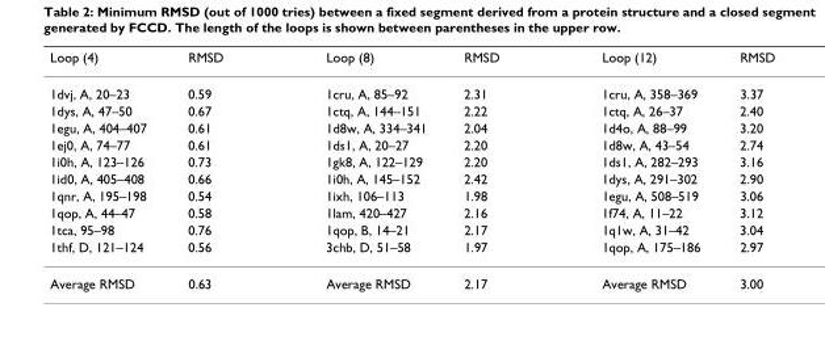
<table><thead><tr><td>Loop (4)</td><td>RMSD</td><td>Loop (8)</td><td>RMSD</td><td>Loop (12)</td><td>RMSD</td></tr></thead><tbody><tr><td>1dvj, A, 20–23</td><td>0.59</td><td>1cru, A, 85–92</td><td>2.31</td><td>1cru, A, 358–369</td><td>3.37</td></tr><tr><td>1dys, A, 47–50</td><td>0.67</td><td>1ctq, A, 144–151</td><td>2.22</td><td>1ctq, A, 26–37</td><td>2.40</td></tr><tr><td>1egu, A, 404–407</td><td>0.61</td><td>1d8w, A, 334–341</td><td>2.04</td><td>1d4o, A, 88–99</td><td>3.20</td></tr><tr><td>1ej0, A, 74–77</td><td>0.61</td><td>1ds1, A, 20–27</td><td>2.20</td><td>1d8w, A, 43–54</td><td>2.74</td></tr><tr><td>1i0h, A, 123–126</td><td>0.73</td><td>1gk8, A, 122–129</td><td>2.20</td><td>1ds1, A, 282–293</td><td>3.16</td></tr><tr><td>1id0, A, 405–408</td><td>0.66</td><td>1i0h, A, 145–152</td><td>2.42</td><td>1dys, A, 291–302</td><td>2.90</td></tr><tr><td>1qnr, A, 195–198</td><td>0.54</td><td>1ixh, 106–113</td><td>1.98</td><td>1egu, A, 508–519</td><td>3.06</td></tr><tr><td>1qop, A, 44–47</td><td>0.58</td><td>1lam, 420–427</td><td>2.16</td><td>1f74, A, 11–22</td><td>3.12</td></tr><tr><td>1tca, 95–98</td><td>0.76</td><td>1qop, B, 14–21</td><td>2.17</td><td>1q1w, A, 31–42</td><td>3.04</td></tr><tr><td>1thf, D, 121–124</td><td>0.56</td><td>3chb, D, 51–58</td><td>1.97</td><td>1qop, A, 175–186</td><td>2.97</td></tr><tr><td>Average RMSD</td><td>0.63</td><td>Average RMSD</td><td>2.17</td><td>Average RMSD</td><td>3.00</td></tr></tbody></table>